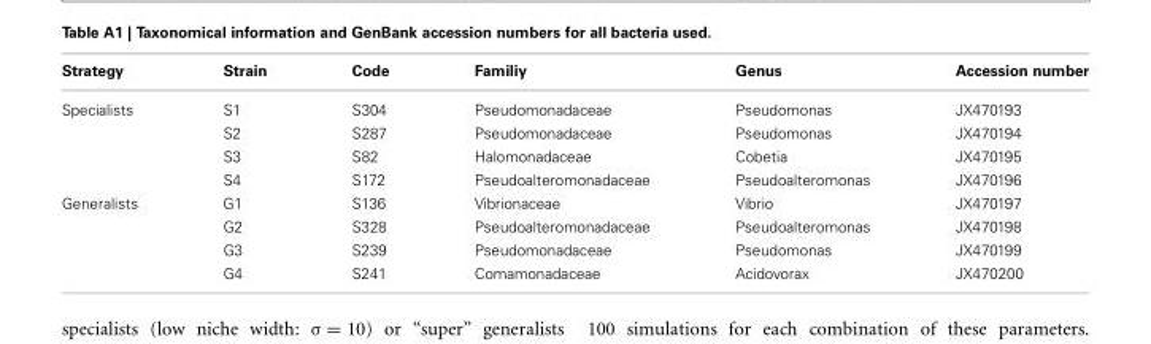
<table><thead><tr><td>Strategy</td><td>Strain</td><td>Code</td><td>Familiy</td><td>Genus</td><td>Accession number</td></tr></thead><tbody><tr><td rowspan="4">Specialists</td><td>S1</td><td>S304</td><td>Pseudomonadaceae</td><td>Pseudomonas</td><td>JX470193</td></tr><tr><td>S2</td><td>S287</td><td>Pseudomonadaceae</td><td>Pseudomonas</td><td>JX470194</td></tr><tr><td>S3</td><td>S82</td><td>Halomonadaceae</td><td>Cobetia</td><td>JX470195</td></tr><tr><td>S4</td><td>S172</td><td>Pseudoalteromonadaceae</td><td>Pseudoalteromonas</td><td>JX470196</td></tr><tr><td rowspan="4">Generalists</td><td>G1</td><td>S136</td><td>Vibrionaceae</td><td>Vibrio</td><td>JX470197</td></tr><tr><td>G2</td><td>S328</td><td>Pseudoalteromonadaceae</td><td>Pseudoalteromonas</td><td>JX470198</td></tr><tr><td>G3</td><td>S239</td><td>Pseudomonadaceae</td><td>Pseudomonas</td><td>JX470199</td></tr><tr><td>G4</td><td>S241</td><td>Comamonadaceae</td><td>Acidovorax</td><td>JX470200</td></tr></tbody></table>